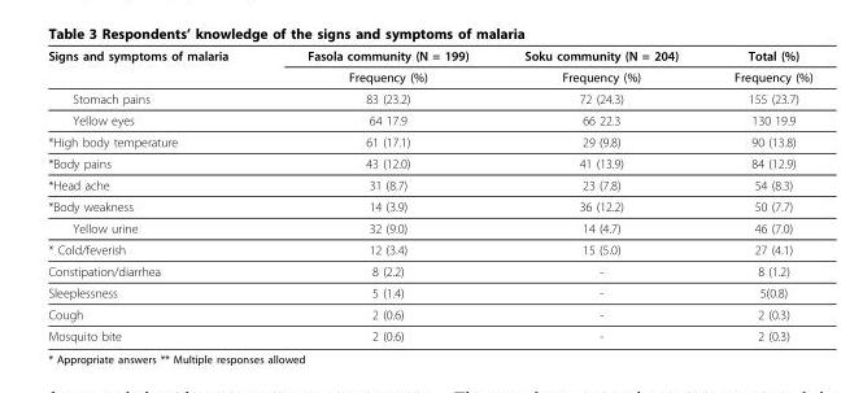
<table><thead><tr><td rowspan="2">Signs and symptoms of malaria</td><td rowspan="2">Fasola community (N = 199) Frequency (%)</td><td rowspan="2">Soku community (N = 204) Frequency (%)</td><td rowspan="2">Total (%) Frequency (%)</td></tr><tr></tr></thead><tbody><tr><td>Stomach pains</td><td>83 (23.2)</td><td>72 (24.3)</td><td>155 (23.7)</td></tr><tr><td>Yellow eyes</td><td>64 17.9</td><td>66 22.3</td><td>130 19.9</td></tr><tr><td>*High body temperature</td><td>61 (17.1)</td><td>29 (9.8)</td><td>90 (13.8)</td></tr><tr><td>*Body pains</td><td>43 (12.0)</td><td>41 (13.9)</td><td>84 (12.9)</td></tr><tr><td>*Head ache</td><td>31 (8.7)</td><td>23 (7.8)</td><td>54 (8.3)</td></tr><tr><td>*Body weakness</td><td>14 (3.9)</td><td>36 (12.2)</td><td>50 (7.7)</td></tr><tr><td>Yellow urine</td><td>32 (9.0)</td><td>14 (4.7)</td><td>46 (7.0)</td></tr><tr><td>* Cold/feverish</td><td>12 (3.4)</td><td>15 (5.0)</td><td>27 (4.1)</td></tr><tr><td>Constipation/diarrhea</td><td>8 (2.2)</td><td>-</td><td>8 (1.2)</td></tr><tr><td>Sleeplessness</td><td>5 (1.4)</td><td>-</td><td>5(0.8)</td></tr><tr><td>Cough</td><td>2 (0.6)</td><td>-</td><td>2 (0.3)</td></tr><tr><td>Mosquito bite</td><td>2 (0.6)</td><td>-</td><td>2 (0.3)</td></tr></tbody></table>